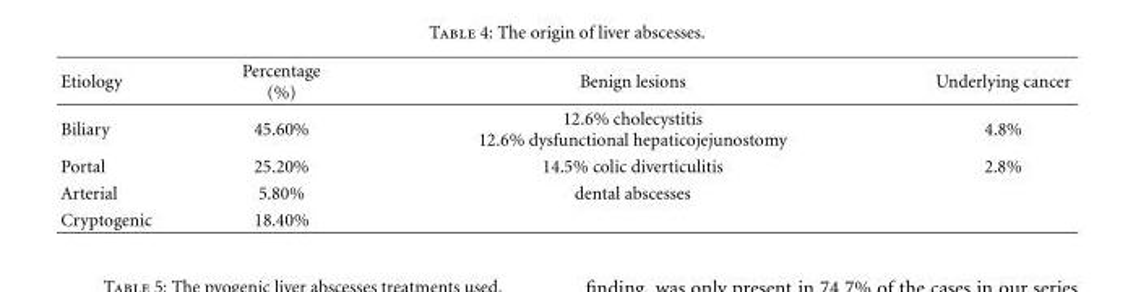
<table><thead><tr><td>Etiology</td><td>Percentage (%)</td><td>Benign lesions</td><td>Underlying cancer</td></tr></thead><tbody><tr><td>Biliary</td><td>45.60%</td><td>12.6% cholecystitis 12.6% dysfunctional hepaticojejunostomy</td><td>4.8%</td></tr><tr><td>Portal</td><td>25.20%</td><td>14.5% colic diverticulitis</td><td>2.8%</td></tr><tr><td>Arterial</td><td>5.80%</td><td>dental abscesses</td><td></td></tr><tr><td>Cryptogenic</td><td>18.40%</td><td></td><td></td></tr></tbody></table>